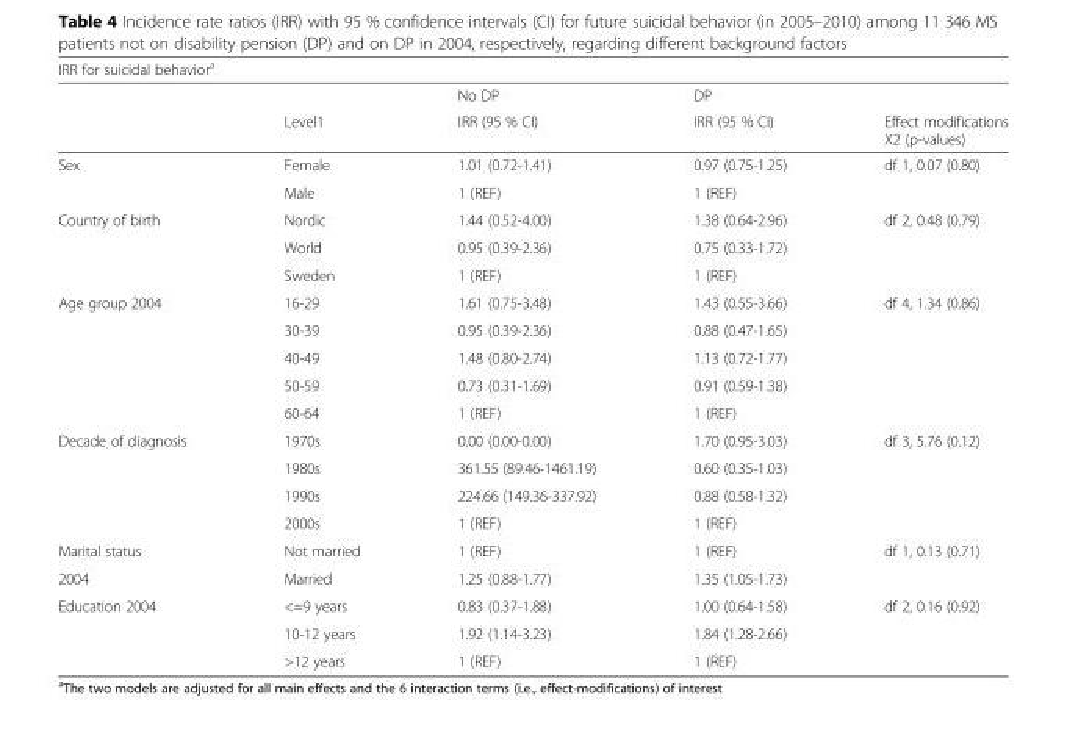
<table><thead><tr><td colspan="5">IRR for suicidal behavior<sup>a</sup></td></tr><tr><td rowspan="2"></td><td rowspan="2">Level1</td><td rowspan="2">No DP IRR (95 % CI)</td><td rowspan="2">DP IRR (95 % CI)</td><td rowspan="2">Effect modifications X2 (p-values)</td></tr><tr></tr></thead><tbody><tr><td rowspan="2">Sex</td><td>Female</td><td>1.01 (0.72-1.41)</td><td>0.97 (0.75-1.25)</td><td>df 1, 0.07 (0.80)</td></tr><tr><td>Male</td><td>1 (REF)</td><td>1 (REF)</td><td></td></tr><tr><td rowspan="3">Country of birth</td><td>Nordic</td><td>1.44 (0.52-4.00)</td><td>1.38 (0.64-2.96)</td><td>df 2, 0.48 (0.79)</td></tr><tr><td>World</td><td>0.95 (0.39-2.36)</td><td>0.75 (0.33-1.72)</td><td></td></tr><tr><td>Sweden</td><td>1 (REF)</td><td>1 (REF)</td><td></td></tr><tr><td rowspan="5">Age group 2004</td><td>16-29</td><td>1.61 (0.75-3.48)</td><td>1.43 (0.55-3.66)</td><td>df 4, 1.34 (0.86)</td></tr><tr><td>30-39</td><td>0.95 (0.39-2.36)</td><td>0.88 (0.47-1.65)</td><td></td></tr><tr><td>40-49</td><td>1.48 (0.80-2.74)</td><td>1.13 (0.72-1.77)</td><td></td></tr><tr><td>50-59</td><td>0.73 (0.31-1.69)</td><td>0.91 (0.59-1.38)</td><td></td></tr><tr><td>60-64</td><td>1 (REF)</td><td>1 (REF)</td><td></td></tr><tr><td rowspan="4">Decade of diagnosis</td><td>1970s</td><td>0.00 (0.00-0.00)</td><td>1.70 (0.95-3.03)</td><td>df 3, 5.76 (0.12)</td></tr><tr><td>1980s</td><td>361.55 (89.46-1461.19)</td><td>0.60 (0.35-1.03)</td><td></td></tr><tr><td>1990s</td><td>224.66 (149.36-337.92)</td><td>0.88 (0.58-1.32)</td><td></td></tr><tr><td>2000s</td><td>1 (REF)</td><td>1 (REF)</td><td></td></tr><tr><td>Marital status</td><td>Not married</td><td>1 (REF)</td><td>1 (REF)</td><td>df 1, 0.13 (0.71)</td></tr><tr><td>2004</td><td>Married</td><td>1.25 (0.88-1.77)</td><td>1.35 (1.05-1.73)</td><td></td></tr><tr><td rowspan="3">Education 2004</td><td>&lt;=9 years</td><td>0.83 (0.37-1.88)</td><td>1.00 (0.64-1.58)</td><td>df 2, 0.16 (0.92)</td></tr><tr><td>10-12 years</td><td>1.92 (1.14-3.23)</td><td>1.84 (1.28-2.66)</td><td></td></tr><tr><td>&gt;12 years</td><td>1 (REF)</td><td>1 (REF)</td><td></td></tr></tbody></table>